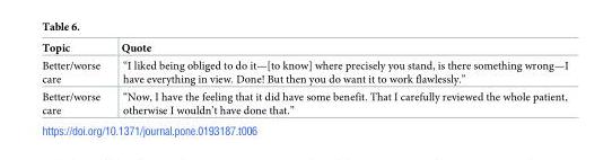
<table><thead><tr><td>Topic</td><td>Quote</td></tr></thead><tbody><tr><td>Better/worse care</td><td>“I liked being obliged to do it—[to know] where precisely you stand, is there something wrong—I have everything in view. Done! But then you do want it to work flawlessly.”</td></tr><tr><td>Better/worse care</td><td>“Now, I have the feeling that it did have some benefit. That I carefully reviewed the whole patient, otherwise I wouldn’t have done that.”</td></tr></tbody></table>